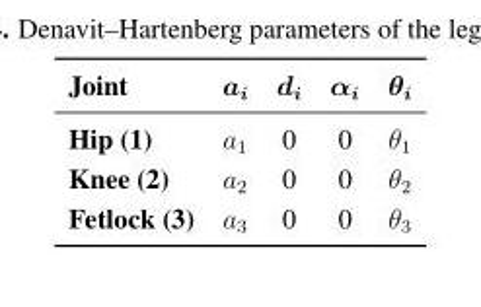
<table><thead><tr><td>Joint</td><td>a<sub>i</sub></td><td>d<sub>i</sub></td><td>α<sub>i</sub></td><td>θ<sub>i</sub></td></tr></thead><tbody><tr><td>Hip (1)</td><td>a<sub>1</sub></td><td>0</td><td>0</td><td>θ<sub>1</sub></td></tr><tr><td>Knee (2)</td><td>a<sub>2</sub></td><td>0</td><td>0</td><td>θ<sub>2</sub></td></tr><tr><td>Fetlock (3)</td><td>a<sub>3</sub></td><td>0</td><td>0</td><td>θ<sub>3</sub></td></tr></tbody></table>